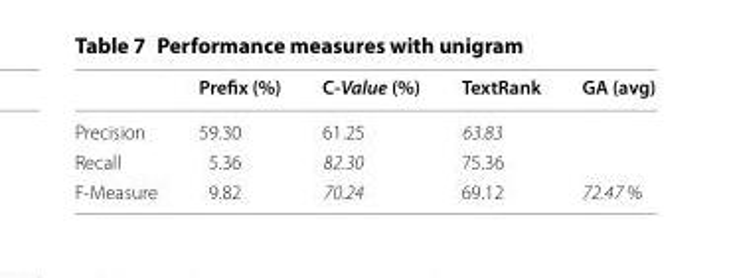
<table><thead><tr><td></td><td>Prefix (%)</td><td>C‑Value (%)</td><td>TextRank</td><td>GA (avg)</td></tr></thead><tbody><tr><td>Precision</td><td>59.30</td><td>61.25</td><td>63.83</td><td></td></tr><tr><td>Recall</td><td>5.36</td><td>82.30</td><td>75.36</td><td></td></tr><tr><td>F-Measure</td><td>9.82</td><td>70.24</td><td>69.12</td><td>72.47 %</td></tr></tbody></table>